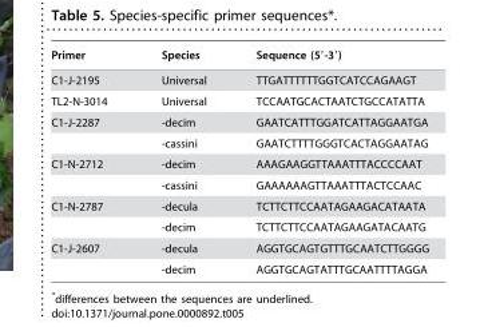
<table><thead><tr><td>Primer</td><td>Species</td><td>Sequence (5′-3′)</td></tr></thead><tbody><tr><td>C1-J-2195</td><td>Universal</td><td>TTGATTTTTTGGTCATCCAGAAGT</td></tr><tr><td>TL2-N-3014</td><td>Universal</td><td>TCCAATGCACTAATCTGCCATATTA</td></tr><tr><td rowspan="2">C1-J-2287</td><td>-decim</td><td>GAATCATTTGGATCATTAGGAATGA</td></tr><tr><td>-cassini</td><td>GAATCTTTTGGGTCACTAGGAATAG</td></tr><tr><td rowspan="2">C1-N-2712</td><td>-decim</td><td>AAAGAAGGTTAAATTTACCCCAAT</td></tr><tr><td>-cassini</td><td>GAAAAAAGTTAAATTTACTCCAAC</td></tr><tr><td rowspan="2">C1-N-2787</td><td>-decula</td><td>TCTTCTTCCAATAGAAGACATAATA</td></tr><tr><td>-decim</td><td>TCTTCTTCCAATAGAAGATACAATG</td></tr><tr><td rowspan="2">C1-J-2607</td><td>-decula</td><td>AGGTGCAGTGTTTGCAATCTTGGGG</td></tr><tr><td>-decim</td><td>AGGTGCAGTATTTGCAATTTTAGGA</td></tr></tbody></table>